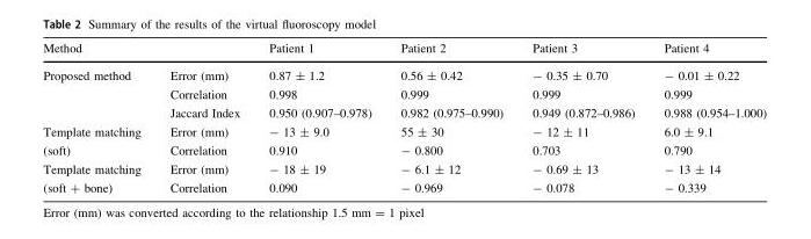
<table><thead><tr><td>Method</td><td></td><td>Patient 1</td><td>Patient 2</td><td>Patient 3</td><td>Patient 4</td></tr></thead><tbody><tr><td rowspan="3">Proposed method</td><td>Error (mm)</td><td>0.87 ± 1.2</td><td>0.56 ± 0.42</td><td>- 0.35 ± 0.70</td><td>- 0.01 ± 0.22</td></tr><tr><td>Correlation</td><td>0.998</td><td>0.999</td><td>0.999</td><td>0.999</td></tr><tr><td>Jaccard Index</td><td>0.950 (0.907–0.978)</td><td>0.982 (0.975–0.990)</td><td>0.949 (0.872–0.986)</td><td>0.988 (0.954–1.000)</td></tr><tr><td rowspan="2">Template matching (soft)</td><td>Error (mm)</td><td>- 13 ± 9.0</td><td>55 ± 30</td><td>- 12 ± 11</td><td>6.0 ± 9.1</td></tr><tr><td>Correlation</td><td>0.910</td><td>- 0.800</td><td>0.703</td><td>0.790</td></tr><tr><td rowspan="2">Template matching (soft + bone)</td><td>Error (mm)</td><td>- 18 ± 19</td><td>- 6.1 ± 12</td><td>- 0.69 ± 13</td><td>- 13 ± 14</td></tr><tr><td>Correlation</td><td>0.090</td><td>- 0.969</td><td>- 0.078</td><td>- 0.339</td></tr></tbody></table>